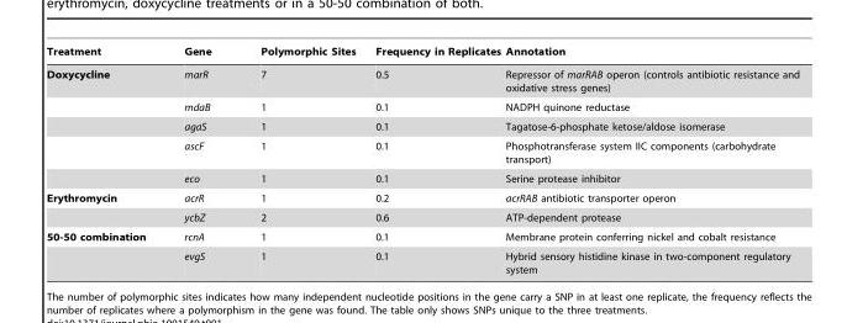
<table><thead><tr><td>Treatment</td><td>Gene</td><td>Polymorphic Sites</td><td>Frequency in Replicates</td><td>Annotation</td></tr></thead><tbody><tr><td rowspan="5">Doxycycline</td><td>marR</td><td>7</td><td>0.5</td><td>Repressor of marRAB operon (controls antibiotic resistance and oxidative stress genes)</td></tr><tr><td>mdaB</td><td>1</td><td>0.1</td><td>NADPH quinone reductase</td></tr><tr><td>agaS</td><td>1</td><td>0.1</td><td>Tagatose-6-phosphate ketose/aldose isomerase</td></tr><tr><td>ascF</td><td>1</td><td>0.1</td><td>Phosphotransferase system IIC components (carbohydrate transport)</td></tr><tr><td>eco</td><td>1</td><td>0.1</td><td>Serine protease inhibitor</td></tr><tr><td rowspan="2">Erythromycin</td><td>acrR</td><td>1</td><td>0.2</td><td>acrRAB antibiotic transporter operon</td></tr><tr><td>ycbZ</td><td>2</td><td>0.6</td><td>ATP-dependent protease</td></tr><tr><td rowspan="2">50-50 combination</td><td>rcnA</td><td>1</td><td>0.1</td><td>Membrane protein conferring nickel and cobalt resistance</td></tr><tr><td>evgS</td><td>1</td><td>0.1</td><td>Hybrid sensory histidine kinase in two-component regulatory system</td></tr></tbody></table>